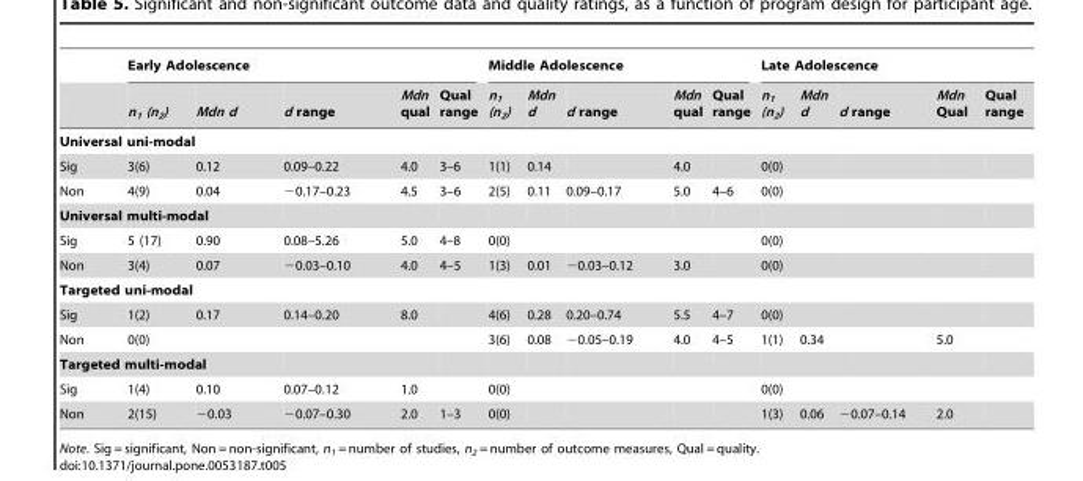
<table><thead><tr><td rowspan="2"></td><td colspan="5">Early Adolescence</td><td colspan="5">Middle Adolescence</td><td colspan="5">Late Adolescence</td></tr><tr><td>n<sub>1</sub> (n<sub>2</sub>)</td><td>Mdn d</td><td>d range</td><td>Mdn qual</td><td>Qual range</td><td>n<sub>1</sub> (n<sub>2</sub>)</td><td>Mdn d</td><td>d range</td><td>Mdn qual</td><td>Qual range</td><td>n<sub>1</sub> (n<sub>2</sub>)</td><td>Mdn d</td><td>d range</td><td>Mdn Qual</td><td>Qual range</td></tr></thead><tbody><tr><td colspan="16">Universal uni-modal</td></tr><tr><td>Sig</td><td>3(6)</td><td>0.12</td><td>0.09–0.22</td><td>4.0</td><td>3–6</td><td>1(1)</td><td>0.14</td><td></td><td>4.0</td><td></td><td>0(0)</td><td></td><td></td><td></td><td></td></tr><tr><td>Non</td><td>4(9)</td><td>0.04</td><td>−0.17–0.23</td><td>4.5</td><td>3–6</td><td>2(5)</td><td>0.11</td><td>0.09–0.17</td><td>5.0</td><td>4–6</td><td>0(0)</td><td></td><td></td><td></td><td></td></tr><tr><td colspan="16">Universal multi-modal</td></tr><tr><td>Sig</td><td>5 (17)</td><td>0.90</td><td>0.08–5.26</td><td>5.0</td><td>4–8</td><td>0(0)</td><td></td><td></td><td></td><td></td><td>0(0)</td><td></td><td></td><td></td><td></td></tr><tr><td>Non</td><td>3(4)</td><td>0.07</td><td>−0.03–0.10</td><td>4.0</td><td>4–5</td><td>1(3)</td><td>0.01</td><td>−0.03–0.12</td><td>3.0</td><td></td><td>0(0)</td><td></td><td></td><td></td><td></td></tr><tr><td colspan="16">Targeted uni-modal</td></tr><tr><td>Sig</td><td>1(2)</td><td>0.17</td><td>0.14–0.20</td><td>8.0</td><td></td><td>4(6)</td><td>0.28</td><td>0.20–0.74</td><td>5.5</td><td>4–7</td><td>0(0)</td><td></td><td></td><td></td><td></td></tr><tr><td>Non</td><td>0(0)</td><td></td><td></td><td></td><td></td><td>3(6)</td><td>0.08</td><td>−0.05–0.19</td><td>4.0</td><td>4–5</td><td>1(1)</td><td>0.34</td><td></td><td>5.0</td><td></td></tr><tr><td colspan="16">Targeted multi-modal</td></tr><tr><td>Sig</td><td>1(4)</td><td>0.10</td><td>0.07–0.12</td><td>1.0</td><td></td><td>0(0)</td><td></td><td></td><td></td><td></td><td>0(0)</td><td></td><td></td><td></td><td></td></tr><tr><td>Non</td><td>2(15)</td><td>−0.03</td><td>−0.07–0.30</td><td>2.0</td><td>1–3</td><td>0(0)</td><td></td><td></td><td></td><td></td><td>1(3)</td><td>0.06</td><td>−0.07–0.14</td><td>2.0</td><td></td></tr></tbody></table>